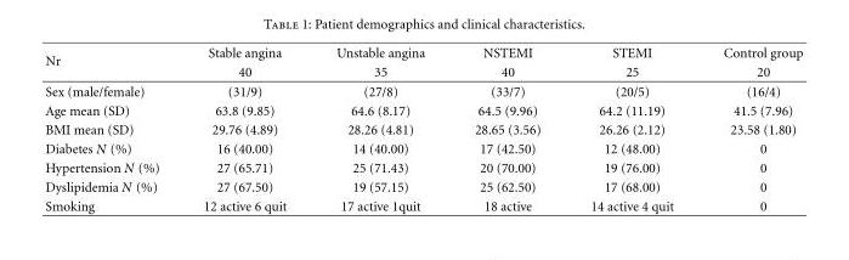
<table><thead><tr><td rowspan="2">Nr</td><td rowspan="2">Stable angina 40</td><td rowspan="2">Unstable angina 35</td><td rowspan="2">NSTEMI 40</td><td rowspan="2">STEMI 25</td><td rowspan="2">Control group 20</td></tr><tr></tr></thead><tbody><tr><td>Sex (male/female)</td><td>(31/9)</td><td>(27/8)</td><td>(33/7)</td><td>(20/5)</td><td>(16/4)</td></tr><tr><td>Age mean (SD)</td><td>63.8 (9.85)</td><td>64.6 (8.17)</td><td>64.5 (9.96)</td><td>64.2 (11.19)</td><td>41.5 (7.96)</td></tr><tr><td>BMI mean (SD)</td><td>29.76 (4.89)</td><td>28.26 (4.81)</td><td>28.65 (3.56)</td><td>26.26 (2.12)</td><td>23.58 (1.80)</td></tr><tr><td>Diabetes N (%)</td><td>16 (40.00)</td><td>14 (40.00)</td><td>17 (42.50)</td><td>12 (48.00)</td><td>0</td></tr><tr><td>Hypertension N (%)</td><td>27 (65.71)</td><td>25 (71.43)</td><td>20 (70.00)</td><td>19 (76.00)</td><td>0</td></tr><tr><td>Dyslipidemia N (%)</td><td>27 (67.50)</td><td>19 (57.15)</td><td>25 (62.50)</td><td>17 (68.00)</td><td>0</td></tr><tr><td>Smoking</td><td>12 active 6 quit</td><td>17 active 1quit</td><td>18 active</td><td>14 active 4 quit</td><td>0</td></tr></tbody></table>